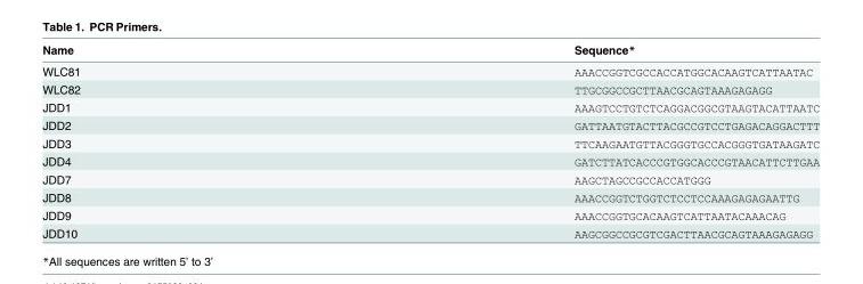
<table><thead><tr><td>Name</td><td>Sequence*</td></tr></thead><tbody><tr><td>WLC81</td><td>AAACCGGTCGCCACCATGGCACAAGTCATTAATAC</td></tr><tr><td>WLC82</td><td>TTGCGGCCGCTTAACGCAGTAAAGAGAGG</td></tr><tr><td>JDD1</td><td>AAAGTCCTGTCTCAGGACGGCGTAAGTACATTAATC</td></tr><tr><td>JDD2</td><td>GATTAATGTACTTACGCCGTCCTGAGACAGGACTTT</td></tr><tr><td>JDD3</td><td>TTCAAGAATGTTACGGGTGCCACGGGTGATAAGATC</td></tr><tr><td>JDD4</td><td>GATCTTATCACCCGTGGCACCCGTAACATTCTTGAA</td></tr><tr><td>JDD7</td><td>AAGCTAGCCGCCACCATGGG</td></tr><tr><td>JDD8</td><td>AAACCGGTCTGGTCTCCTCCAAAGAGAGAATTG</td></tr><tr><td>JDD9</td><td>AAACCGGTGCACAAGTCATTAATACAAACAG</td></tr><tr><td>JDD10</td><td>AAGCGGCCGCGTCGACTTAACGCAGTAAAGAGAGG</td></tr></tbody></table>